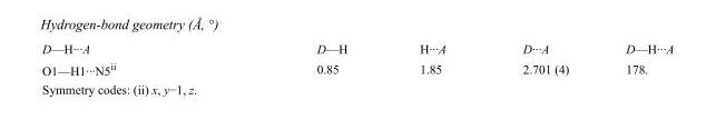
<table><tbody><tr><td>D—H···A</td><td>D—H</td><td>H···A</td><td>D···A</td><td>D—H···A</td></tr><tr><td>O1—H1···N5<sup>ii</sup></td><td>0.85</td><td>1.85</td><td>2.701 (4)</td><td>178.</td></tr></tbody></table>